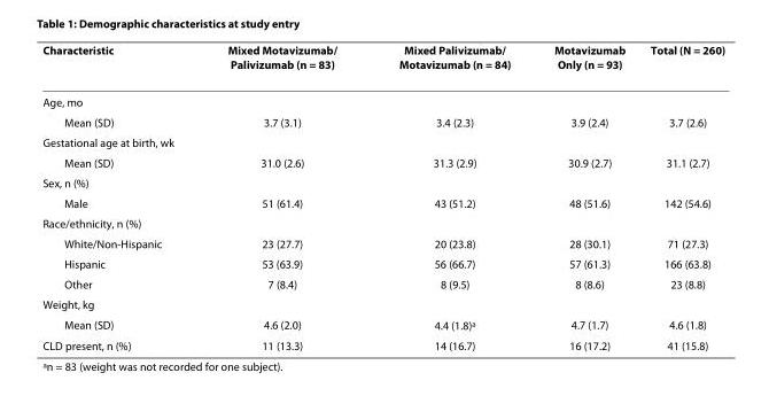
<table><thead><tr><td>Characteristic</td><td>Mixed Motavizumab/ Palivizumab (n = 83)</td><td>Mixed Palivizumab/ Motavizumab (n = 84)</td><td>Motavizumab Only (n = 93)</td><td>Total (N = 260)</td></tr></thead><tbody><tr><td colspan="5">Age, mo</td></tr><tr><td>Mean (SD)</td><td>3.7 (3.1)</td><td>3.4 (2.3)</td><td>3.9 (2.4)</td><td>3.7 (2.6)</td></tr><tr><td colspan="5">Gestational age at birth, wk</td></tr><tr><td>Mean (SD)</td><td>31.0 (2.6)</td><td>31.3 (2.9)</td><td>30.9 (2.7)</td><td>31.1 (2.7)</td></tr><tr><td colspan="5">Sex, n (%)</td></tr><tr><td>Male</td><td>51 (61.4)</td><td>43 (51.2)</td><td>48 (51.6)</td><td>142 (54.6)</td></tr><tr><td colspan="5">Race/ethnicity, n (%)</td></tr><tr><td>White/Non-Hispanic</td><td>23 (27.7)</td><td>20 (23.8)</td><td>28 (30.1)</td><td>71 (27.3)</td></tr><tr><td>Hispanic</td><td>53 (63.9)</td><td>56 (66.7)</td><td>57 (61.3)</td><td>166 (63.8)</td></tr><tr><td>Other</td><td>7 (8.4)</td><td>8 (9.5)</td><td>8 (8.6)</td><td>23 (8.8)</td></tr><tr><td colspan="5">Weight, kg</td></tr><tr><td>Mean (SD)</td><td>4.6 (2.0)</td><td>4.4 (1.8)<sup>a</sup></td><td>4.7 (1.7)</td><td>4.6 (1.8)</td></tr><tr><td>CLD present, n (%)</td><td>11 (13.3)</td><td>14 (16.7)</td><td>16 (17.2)</td><td>41 (15.8)</td></tr></tbody></table>